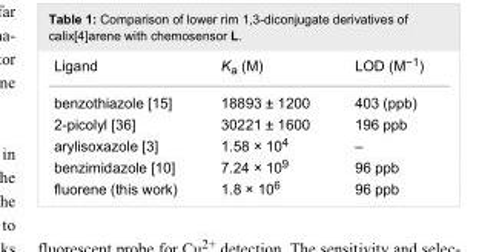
<table><tbody><tr><td>Ligand</td><td>K<sub>a</sub> (M)</td><td>LOD (M<sup>−1</sup>)</td></tr><tr><td>benzothiazole [15]</td><td>18893 ± 1200</td><td>403 (ppb)</td></tr><tr><td>2-picolyl [36]</td><td>30221 ± 1600</td><td>196 ppb</td></tr><tr><td>arylisoxazole [3]</td><td>1.58 × 10<sup>4</sup></td><td>–</td></tr><tr><td>benzimidazole [10]</td><td>7.24 × 10<sup>9</sup></td><td>96 ppb</td></tr><tr><td>fluorene (this work)</td><td>1.8 × 10<sup>6</sup></td><td>96 ppb</td></tr></tbody></table>